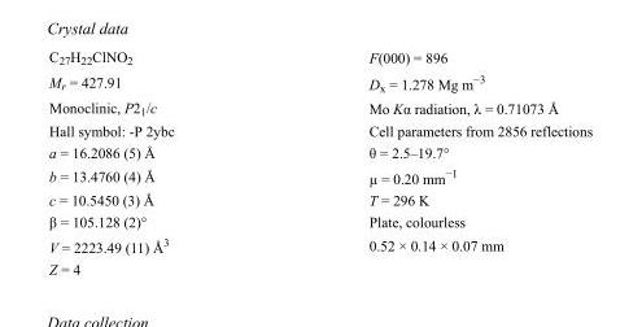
<table><tbody><tr><td>C<sub>27</sub>H<sub>22</sub>ClNO<sub>2</sub></td><td>F(000) = 896</td></tr><tr><td>M<sub>r</sub> = 427.91</td><td>D<sub>x</sub> = 1.278 Mg m<sup>−3</sup></td></tr><tr><td>Monoclinic, P2<sub>1</sub>/c</td><td>Mo Kα radiation, λ = 0.71073 Å</td></tr><tr><td>Hall symbol: -P 2ybc</td><td>Cell parameters from 2856 reflections</td></tr><tr><td>a = 16.2086 (5) Å</td><td>θ = 2.5–19.7°</td></tr><tr><td>b = 13.4760 (4) Å</td><td>µ = 0.20 mm<sup>−1</sup></td></tr><tr><td>c = 10.5450 (3) Å</td><td>T = 296 K</td></tr><tr><td>β = 105.128 (2)°</td><td>Plate, colourless</td></tr><tr><td>V = 2223.49 (11) Å<sup>3</sup></td><td>0.52 × 0.14 × 0.07 mm</td></tr><tr><td>Z = 4</td><td></td></tr></tbody></table>